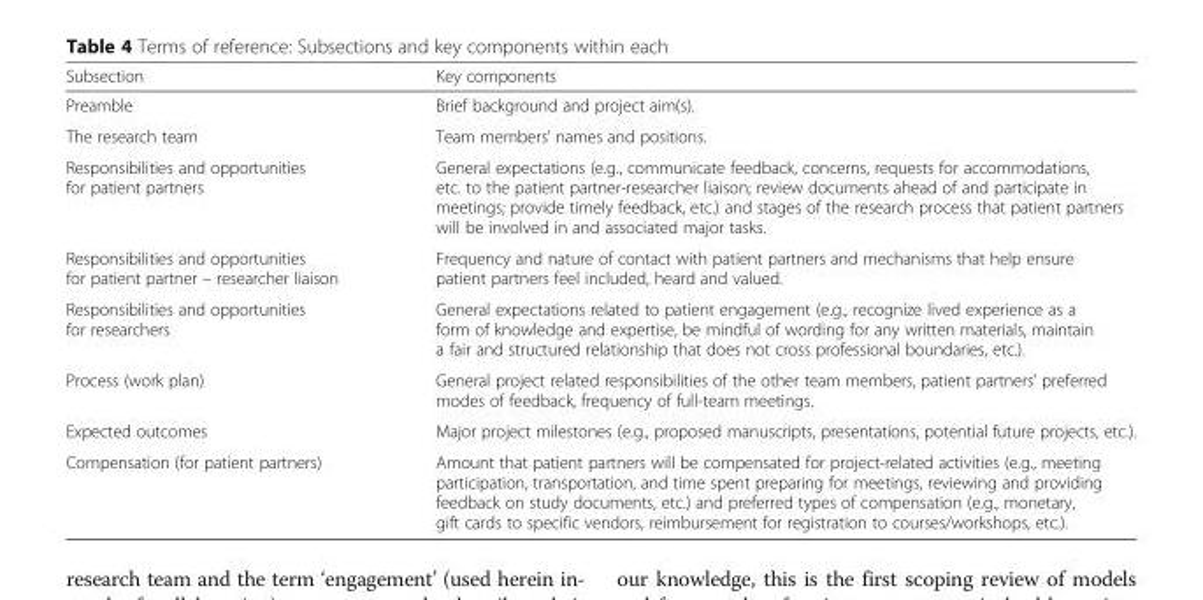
<table><thead><tr><td>Subsection</td><td>Key components</td></tr></thead><tbody><tr><td>Preamble</td><td>Brief background and project aim(s).</td></tr><tr><td>The research team</td><td>Team members’ names and positions.</td></tr><tr><td>Responsibilities and opportunities for patient partners</td><td>General expectations (e.g., communicate feedback, concerns, requests for accommodations, etc. to the patient partner-researcher liaison; review documents ahead of and participate in meetings; provide timely feedback, etc.) and stages of the research process that patient partners will be involved in and associated major tasks.</td></tr><tr><td>Responsibilities and opportunities for patient partner – researcher liaison</td><td>Frequency and nature of contact with patient partners and mechanisms that help ensure patient partners feel included, heard and valued.</td></tr><tr><td>Responsibilities and opportunities for researchers</td><td>General expectations related to patient engagement (e.g., recognize lived experience as a form of knowledge and expertise, be mindful of wording for any written materials, maintain a fair and structured relationship that does not cross professional boundaries, etc.).</td></tr><tr><td>Process (work plan)</td><td>General project related responsibilities of the other team members, patient partners’ preferred modes of feedback, frequency of full-team meetings.</td></tr><tr><td>Expected outcomes</td><td>Major project milestones (e.g., proposed manuscripts, presentations, potential future projects, etc.).</td></tr><tr><td>Compensation (for patient partners)</td><td>Amount that patient partners will be compensated for project-related activities (e.g., meeting participation, transportation, and time spent preparing for meetings, reviewing and providing feedback on study documents, etc.) and preferred types of compensation (e.g., monetary, gift cards to specific vendors, reimbursement for registration to courses/workshops, etc.).</td></tr></tbody></table>